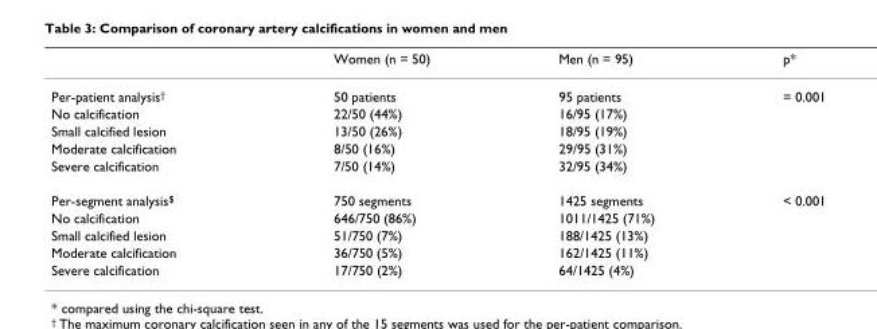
<table><thead><tr><td></td><td>Women (n = 50)</td><td>Men (n = 95)</td><td>p*</td></tr></thead><tbody><tr><td>Per-patient analysis<sup>†</sup></td><td>50 patients</td><td>95 patients</td><td>= 0.001</td></tr><tr><td>No calcification</td><td>22/50 (44%)</td><td>16/95 (17%)</td><td></td></tr><tr><td>Small calcified lesion</td><td>13/50 (26%)</td><td>18/95 (19%)</td><td></td></tr><tr><td>Moderate calcification</td><td>8/50 (16%)</td><td>29/95 (31%)</td><td></td></tr><tr><td>Severe calcification</td><td>7/50 (14%)</td><td>32/95 (34%)</td><td></td></tr><tr><td>Per-segment analysis<sup>$</sup></td><td>750 segments</td><td>1425 segments</td><td>&lt; 0.001</td></tr><tr><td>No calcification</td><td>646/750 (86%)</td><td>1011/1425 (71%)</td><td></td></tr><tr><td>Small calcified lesion</td><td>51/750 (7%)</td><td>188/1425 (13%)</td><td></td></tr><tr><td>Moderate calcification</td><td>36/750 (5%)</td><td>162/1425 (11%)</td><td></td></tr><tr><td>Severe calcification</td><td>17/750 (2%)</td><td>64/1425 (4%)</td><td></td></tr></tbody></table>